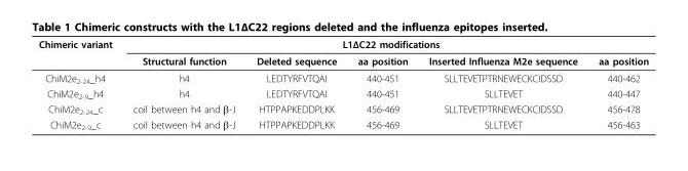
<table><thead><tr><td rowspan="2">Chimeric variant</td><td colspan="5">L1ΔC22 modifications</td></tr><tr><td>Structural function</td><td>Deleted sequence</td><td>aa position</td><td>Inserted Influenza M2e sequence</td><td>aa position</td></tr></thead><tbody><tr><td>ChiM2e2-24_h4</td><td>h4</td><td>LEDTYRFVTQAI</td><td>440-451</td><td>SLLTEVETPTRNEWECKCIDSSD</td><td>440-462</td></tr><tr><td>ChiM2e2-9_h4</td><td>h4</td><td>LEDTYRFVTQAI</td><td>440-451</td><td>SLLTEVET</td><td>440-447</td></tr><tr><td>ChiM2e2-24_c</td><td>coil between h4 and β-J</td><td>HTPPAPKEDDPLKK</td><td>456-469</td><td>SLLTEVETPTRNEWECKCIDSSD</td><td>456-478</td></tr><tr><td>ChiM2e2-9_c</td><td>coil between h4 and β-J</td><td>HTPPAPKEDDPLKK</td><td>456-469</td><td>SLLTEVET</td><td>456-463</td></tr></tbody></table>